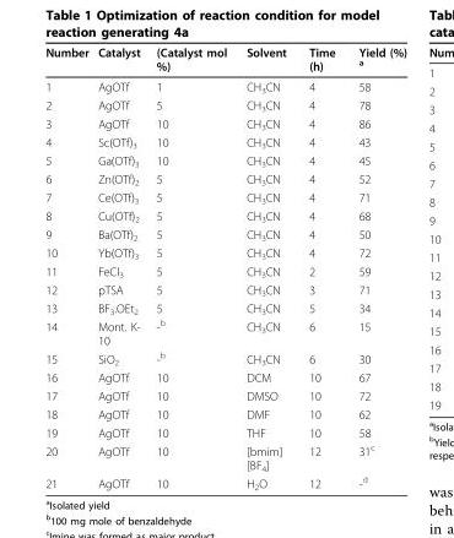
<table><thead><tr><td>Number</td><td>Catalyst</td><td>(Catalyst mol %)</td><td>Solvent</td><td>Time (h)</td><td>Yield (%) <sup>a</sup></td></tr></thead><tbody><tr><td>1</td><td>AgOTf</td><td>1</td><td>CH<sub>3</sub>CN</td><td>4</td><td>58</td></tr><tr><td>2</td><td>AgOTf</td><td>5</td><td>CH<sub>3</sub>CN</td><td>4</td><td>78</td></tr><tr><td>3</td><td>AgOTf</td><td>10</td><td>CH<sub>3</sub>CN</td><td>4</td><td>86</td></tr><tr><td>4</td><td>Sc(OTf)<sub>3</sub></td><td>10</td><td>CH<sub>3</sub>CN</td><td>4</td><td>43</td></tr><tr><td>5</td><td>Ga(OTf)<sub>3</sub></td><td>10</td><td>CH<sub>3</sub>CN</td><td>4</td><td>45</td></tr><tr><td>6</td><td>Zn(OTf)<sub>2</sub></td><td>5</td><td>CH<sub>3</sub>CN</td><td>4</td><td>52</td></tr><tr><td>7</td><td>Ce(OTf)<sub>3</sub></td><td>5</td><td>CH<sub>3</sub>CN</td><td>4</td><td>71</td></tr><tr><td>8</td><td>Cu(OTf)<sub>2</sub></td><td>5</td><td>CH<sub>3</sub>CN</td><td>4</td><td>68</td></tr><tr><td>9</td><td>Ba(OTf)<sub>2</sub></td><td>5</td><td>CH<sub>3</sub>CN</td><td>4</td><td>50</td></tr><tr><td>10</td><td>Yb(OTf)<sub>3</sub></td><td>5</td><td>CH<sub>3</sub>CN</td><td>4</td><td>72</td></tr><tr><td>11</td><td>FeCl<sub>3</sub></td><td>5</td><td>CH<sub>3</sub>CN</td><td>2</td><td>59</td></tr><tr><td>12</td><td>pTSA</td><td>5</td><td>CH<sub>3</sub>CN</td><td>3</td><td>71</td></tr><tr><td>13</td><td>BF<sub>3</sub>.OEt<sub>2</sub></td><td>5</td><td>CH<sub>3</sub>CN</td><td>5</td><td>34</td></tr><tr><td>14</td><td>Mont. K- 10</td><td>-<sup>b</sup></td><td>CH<sub>3</sub>CN</td><td>6</td><td>15</td></tr><tr><td>15</td><td>SiO<sub>2</sub></td><td>-<sup>b</sup></td><td>CH<sub>3</sub>CN</td><td>6</td><td>30</td></tr><tr><td>16</td><td>AgOTf</td><td>10</td><td>DCM</td><td>10</td><td>67</td></tr><tr><td>17</td><td>AgOTf</td><td>10</td><td>DMSO</td><td>10</td><td>72</td></tr><tr><td>18</td><td>AgOTf</td><td>10</td><td>DMF</td><td>10</td><td>62</td></tr><tr><td>19</td><td>AgOTf</td><td>10</td><td>THF</td><td>10</td><td>58</td></tr><tr><td>20</td><td>AgOTf</td><td>10</td><td>[bmim] [BF<sub>4</sub>]</td><td>12</td><td>31<sup>c</sup></td></tr><tr><td>21</td><td>AgOTf</td><td>10</td><td>H<sub>2</sub>O</td><td>12</td><td>-<sup>d</sup></td></tr></tbody></table>